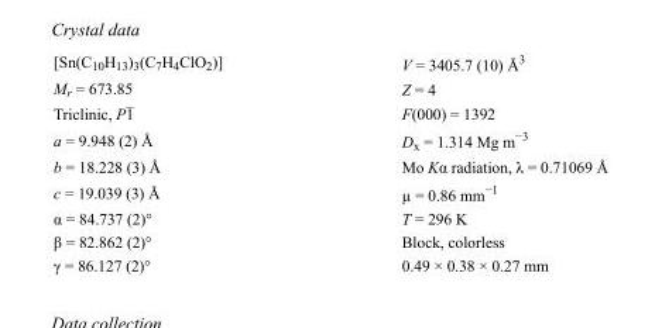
<table><tbody><tr><td>[Sn(C<sub>10</sub>H<sub>13</sub>)<sub>3</sub>(C<sub>7</sub>H<sub>4</sub>ClO<sub>2</sub>)]</td><td>V = 3405.7 (10) Å<sup>3</sup></td></tr><tr><td>M<sub>r</sub> = 673.85</td><td>Z = 4</td></tr><tr><td>Triclinic, P1</td><td>F(000) = 1392</td></tr><tr><td>a = 9.948 (2) Å</td><td>D<sub>x</sub> = 1.314 Mg m<sup>−3</sup></td></tr><tr><td>b = 18.228 (3) Å</td><td>Mo Kα radiation, λ = 0.71069 Å</td></tr><tr><td>c = 19.039 (3) Å</td><td>µ = 0.86 mm<sup>−1</sup></td></tr><tr><td>α = 84.737 (2)°</td><td>T = 296 K</td></tr><tr><td>β = 82.862 (2)°</td><td>Block, colorless</td></tr><tr><td>γ = 86.127 (2)°</td><td>0.49 × 0.38 × 0.27 mm</td></tr></tbody></table>